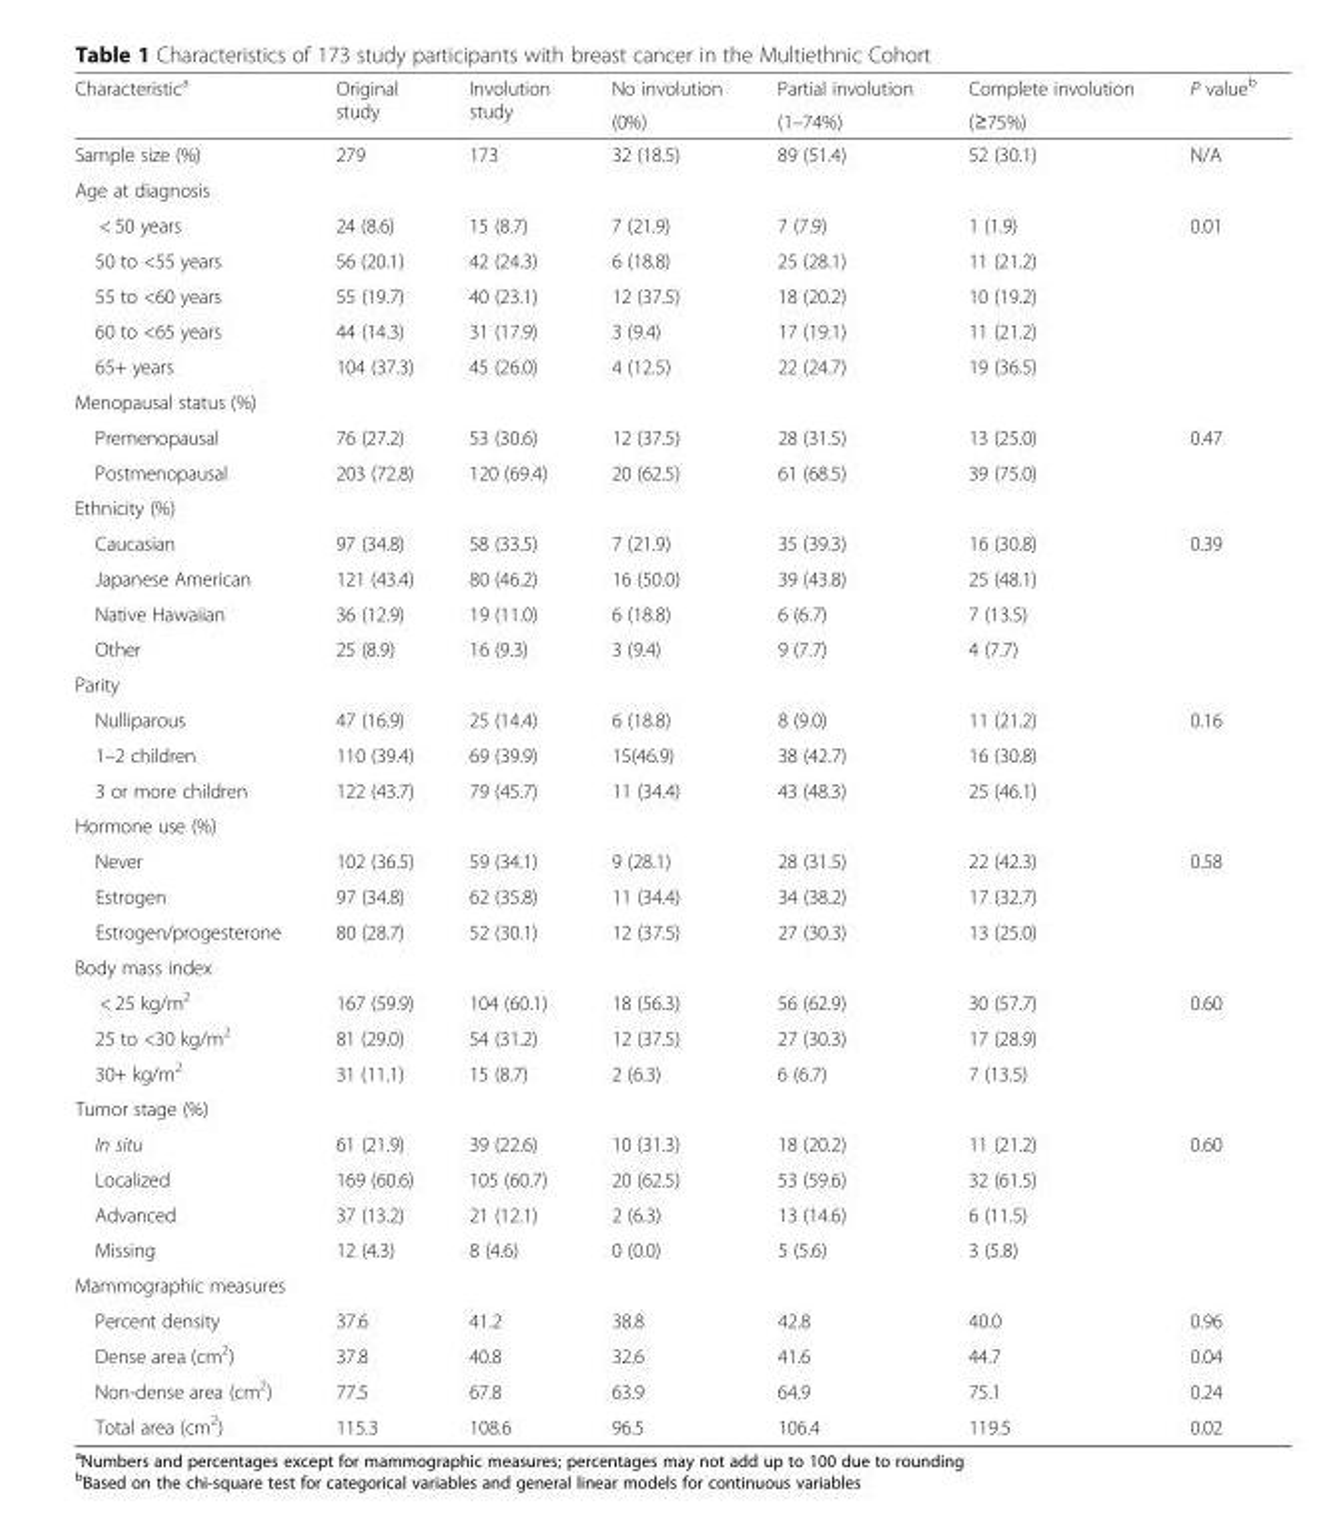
<table><thead><tr><td rowspan="2">Characteristic<sup>a</sup></td><td rowspan="2">Original study</td><td rowspan="2">Involution study</td><td rowspan="2">No involution (0%)</td><td rowspan="2">Partial involution (1–74%)</td><td rowspan="2">Complete involution (≥75%)</td><td rowspan="2">P value<sup>b</sup></td></tr><tr></tr></thead><tbody><tr><td>Sample size (%)</td><td>279</td><td>173</td><td>32 (18.5)</td><td>89 (51.4)</td><td>52 (30.1)</td><td>N/A</td></tr><tr><td colspan="7">Age at diagnosis</td></tr><tr><td>&lt; 50 years</td><td>24 (8.6)</td><td>15 (8.7)</td><td>7 (21.9)</td><td>7 (7.9)</td><td>1 (1.9)</td><td rowspan="5">0.01</td></tr><tr><td>50 to &lt;55 years</td><td>56 (20.1)</td><td>42 (24.3)</td><td>6 (18.8)</td><td>25 (28.1)</td><td>11 (21.2)</td></tr><tr><td>55 to &lt;60 years</td><td>55 (19.7)</td><td>40 (23.1)</td><td>12 (37.5)</td><td>18 (20.2)</td><td>10 (19.2)</td></tr><tr><td>60 to &lt;65 years</td><td>44 (14.3)</td><td>31 (17.9)</td><td>3 (9.4)</td><td>17 (19.1)</td><td>11 (21.2)</td></tr><tr><td>65+ years</td><td>104 (37.3)</td><td>45 (26.0)</td><td>4 (12.5)</td><td>22 (24.7)</td><td>19 (36.5)</td></tr><tr><td colspan="7">Menopausal status (%)</td></tr><tr><td>Premenopausal</td><td>76 (27.2)</td><td>53 (30.6)</td><td>12 (37.5)</td><td>28 (31.5)</td><td>13 (25.0)</td><td rowspan="2">0.47</td></tr><tr><td>Postmenopausal</td><td>203 (72.8)</td><td>120 (69.4)</td><td>20 (62.5)</td><td>61 (68.5)</td><td>39 (75.0)</td></tr><tr><td colspan="7">Ethnicity (%)</td></tr><tr><td>Caucasian</td><td>97 (34.8)</td><td>58 (33.5)</td><td>7 (21.9)</td><td>35 (39.3)</td><td>16 (30.8)</td><td rowspan="4">0.39</td></tr><tr><td>Japanese American</td><td>121 (43.4)</td><td>80 (46.2)</td><td>16 (50.0)</td><td>39 (43.8)</td><td>25 (48.1)</td></tr><tr><td>Native Hawaiian</td><td>36 (12.9)</td><td>19 (11.0)</td><td>6 (18.8)</td><td>6 (6.7)</td><td>7 (13.5)</td></tr><tr><td>Other</td><td>25 (8.9)</td><td>16 (9.3)</td><td>3 (9.4)</td><td>9 (7.7)</td><td>4 (7.7)</td></tr><tr><td colspan="7">Parity</td></tr><tr><td>Nulliparous</td><td>47 (16.9)</td><td>25 (14.4)</td><td>6 (18.8)</td><td>8 (9.0)</td><td>11 (21.2)</td><td rowspan="3">0.16</td></tr><tr><td>1–2 children</td><td>110 (39.4)</td><td>69 (39.9)</td><td>15(46.9)</td><td>38 (42.7)</td><td>16 (30.8)</td></tr><tr><td>3 or more children</td><td>122 (43.7)</td><td>79 (45.7)</td><td>11 (34.4)</td><td>43 (48.3)</td><td>25 (46.1)</td></tr><tr><td colspan="7">Hormone use (%)</td></tr><tr><td>Never</td><td>102 (36.5)</td><td>59 (34.1)</td><td>9 (28.1)</td><td>28 (31.5)</td><td>22 (42.3)</td><td rowspan="3">0.58</td></tr><tr><td>Estrogen</td><td>97 (34.8)</td><td>62 (35.8)</td><td>11 (34.4)</td><td>34 (38.2)</td><td>17 (32.7)</td></tr><tr><td>Estrogen/progesterone</td><td>80 (28.7)</td><td>52 (30.1)</td><td>12 (37.5)</td><td>27 (30.3)</td><td>13 (25.0)</td></tr><tr><td colspan="7">Body mass index</td></tr><tr><td>&lt; 25 kg/m<sup>2</sup></td><td>167 (59.9)</td><td>104 (60.1)</td><td>18 (56.3)</td><td>56 (62.9)</td><td>30 (57.7)</td><td rowspan="3">0.60</td></tr><tr><td>25 to &lt;30 kg/m<sup>2</sup></td><td>81 (29.0)</td><td>54 (31.2)</td><td>12 (37.5)</td><td>27 (30.3)</td><td>17 (28.9)</td></tr><tr><td>30+ kg/m<sup>2</sup></td><td>31 (11.1)</td><td>15 (8.7)</td><td>2 (6.3)</td><td>6 (6.7)</td><td>7 (13.5)</td></tr><tr><td colspan="7">Tumor stage (%)</td></tr><tr><td>In situ</td><td>61 (21.9)</td><td>39 (22.6)</td><td>10 (31.3)</td><td>18 (20.2)</td><td>11 (21.2)</td><td rowspan="4">0.60</td></tr><tr><td>Localized</td><td>169 (60.6)</td><td>105 (60.7)</td><td>20 (62.5)</td><td>53 (59.6)</td><td>32 (61.5)</td></tr><tr><td>Advanced</td><td>37 (13.2)</td><td>21 (12.1)</td><td>2 (6.3)</td><td>13 (14.6)</td><td>6 (11.5)</td></tr><tr><td>Missing</td><td>12 (4.3)</td><td>8 (4.6)</td><td>0 (0.0)</td><td>5 (5.6)</td><td>3 (5.8)</td></tr><tr><td colspan="7">Mammographic measures</td></tr><tr><td>Percent density</td><td>37.6</td><td>41.2</td><td>38.8</td><td>42.8</td><td>40.0</td><td>0.96</td></tr><tr><td>Dense area (cm<sup>2</sup>)</td><td>37.8</td><td>40.8</td><td>32.6</td><td>41.6</td><td>44.7</td><td>0.04</td></tr><tr><td>Non-dense area (cm<sup>2</sup>)</td><td>77.5</td><td>67.8</td><td>63.9</td><td>64.9</td><td>75.1</td><td>0.24</td></tr><tr><td>Total area (cm<sup>2</sup>)</td><td>115.3</td><td>108.6</td><td>96.5</td><td>106.4</td><td>119.5</td><td>0.02</td></tr></tbody></table>